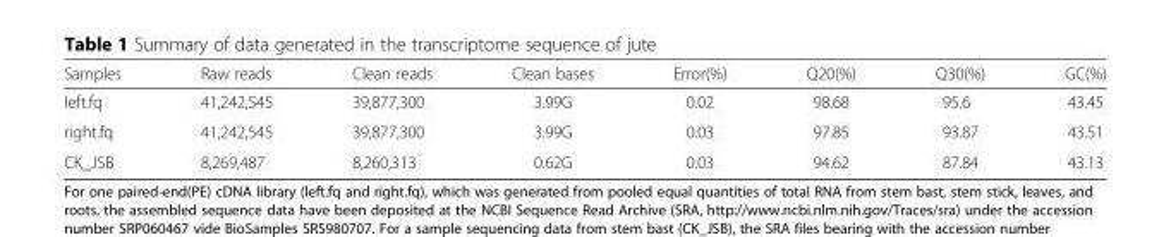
<table><thead><tr><td>Samples</td><td>Raw reads</td><td>Clean reads</td><td>Clean bases</td><td>Error(%)</td><td>Q20(%)</td><td>Q30(%)</td><td>GC(%)</td></tr></thead><tbody><tr><td>left.fq</td><td>41,242,545</td><td>39,877,300</td><td>3.99G</td><td>0.02</td><td>98.68</td><td>95.6</td><td>43.45</td></tr><tr><td>right.fq</td><td>41,242,545</td><td>39,877,300</td><td>3.99G</td><td>0.03</td><td>97.85</td><td>93.87</td><td>43.51</td></tr><tr><td>CK_JSB</td><td>8,269,487</td><td>8,260,313</td><td>0.62G</td><td>0.03</td><td>94.62</td><td>87.84</td><td>43.13</td></tr></tbody></table>